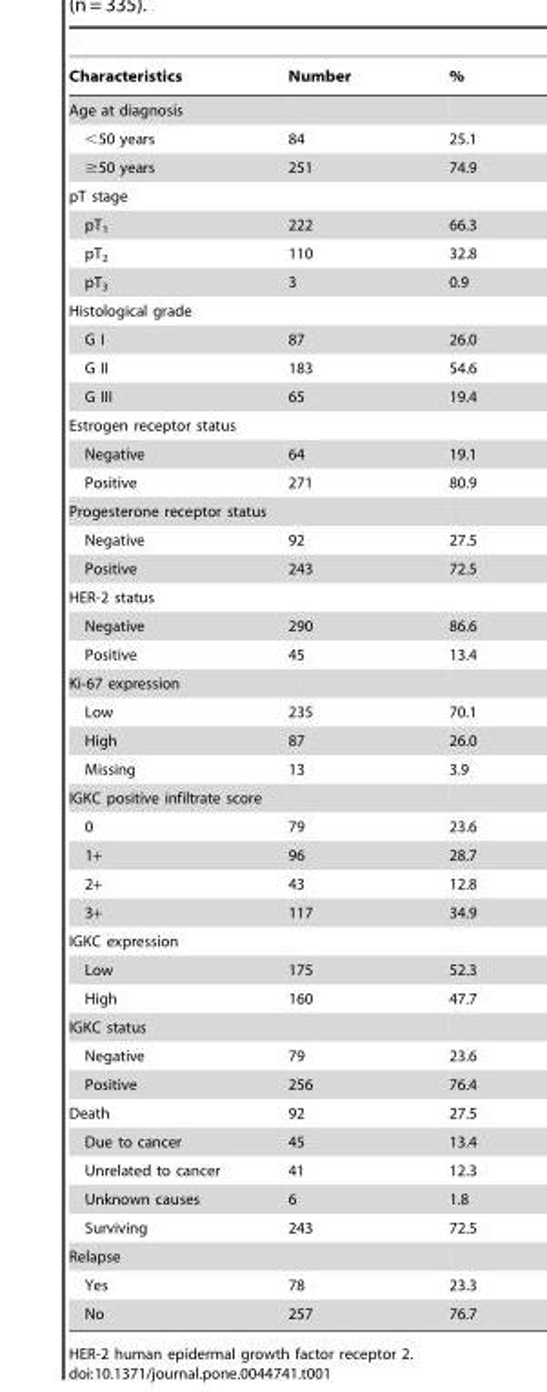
<table><thead><tr><td>Characteristics</td><td>Number</td><td>%</td></tr></thead><tbody><tr><td colspan="3">Age at diagnosis</td></tr><tr><td>&lt;50 years</td><td>84</td><td>25.1</td></tr><tr><td>≥50 years</td><td>251</td><td>74.9</td></tr><tr><td colspan="3">pT stage</td></tr><tr><td>pT<sub>1</sub></td><td>222</td><td>66.3</td></tr><tr><td>pT<sub>2</sub></td><td>110</td><td>32.8</td></tr><tr><td>pT<sub>3</sub></td><td>3</td><td>0.9</td></tr><tr><td colspan="3">Histological grade</td></tr><tr><td>G I</td><td>87</td><td>26.0</td></tr><tr><td>G II</td><td>183</td><td>54.6</td></tr><tr><td>G III</td><td>65</td><td>19.4</td></tr><tr><td colspan="3">Estrogen receptor status</td></tr><tr><td>Negative</td><td>64</td><td>19.1</td></tr><tr><td>Positive</td><td>271</td><td>80.9</td></tr><tr><td colspan="3">Progesterone receptor status</td></tr><tr><td>Negative</td><td>92</td><td>27.5</td></tr><tr><td>Positive</td><td>243</td><td>72.5</td></tr><tr><td colspan="3">HER-2 status</td></tr><tr><td>Negative</td><td>290</td><td>86.6</td></tr><tr><td>Positive</td><td>45</td><td>13.4</td></tr><tr><td colspan="3">Ki-67 expression</td></tr><tr><td>Low</td><td>235</td><td>70.1</td></tr><tr><td>High</td><td>87</td><td>26.0</td></tr><tr><td>Missing</td><td>13</td><td>3.9</td></tr><tr><td colspan="3">IGKC positive infiltrate score</td></tr><tr><td>0</td><td>79</td><td>23.6</td></tr><tr><td>1+</td><td>96</td><td>28.7</td></tr><tr><td>2+</td><td>43</td><td>12.8</td></tr><tr><td>3+</td><td>117</td><td>34.9</td></tr><tr><td colspan="3">IGKC expression</td></tr><tr><td>Low</td><td>175</td><td>52.3</td></tr><tr><td>High</td><td>160</td><td>47.7</td></tr><tr><td colspan="3">IGKC status</td></tr><tr><td>Negative</td><td>79</td><td>23.6</td></tr><tr><td>Positive</td><td>256</td><td>76.4</td></tr><tr><td>Death</td><td>92</td><td>27.5</td></tr><tr><td>Due to cancer</td><td>45</td><td>13.4</td></tr><tr><td>Unrelated to cancer</td><td>41</td><td>12.3</td></tr><tr><td>Unknown causes</td><td>6</td><td>1.8</td></tr><tr><td>Surviving</td><td>243</td><td>72.5</td></tr><tr><td colspan="3">Relapse</td></tr><tr><td>Yes</td><td>78</td><td>23.3</td></tr><tr><td>No</td><td>257</td><td>76.7</td></tr></tbody></table>